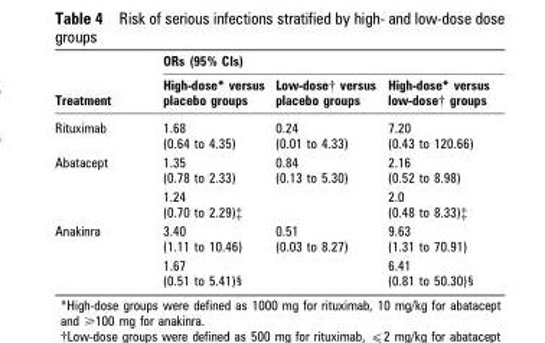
<table><thead><tr><td rowspan="2">Treatment</td><td colspan="3">ORs (95% CIs)</td></tr><tr><td>High-dose* versus placebo groups</td><td>Low-dose† versus placebo groups</td><td>High-dose* versus low-dose† groups</td></tr></thead><tbody><tr><td>Rituximab</td><td>1.68 (0.64 to 4.35)</td><td>0.24 (0.01 to 4.33)</td><td>7.20 (0.43 to 120.66)</td></tr><tr><td rowspan="2">Abatacept</td><td>1.35 (0.78 to 2.33)</td><td>0.84 (0.13 to 5.30)</td><td>2.16 (0.52 to 8.98)</td></tr><tr><td>1.24 (0.70 to 2.29)‡</td><td></td><td>2.0 (0.48 to 8.33)‡</td></tr><tr><td rowspan="2">Anakinra</td><td>3.40 (1.11 to 10.46)</td><td>0.51 (0.03 to 8.27)</td><td>9.63 (1.31 to 70.91)</td></tr><tr><td>1.67 (0.51 to 5.41)§</td><td></td><td>6.41 (0.81 to 50.30)§</td></tr></tbody></table>